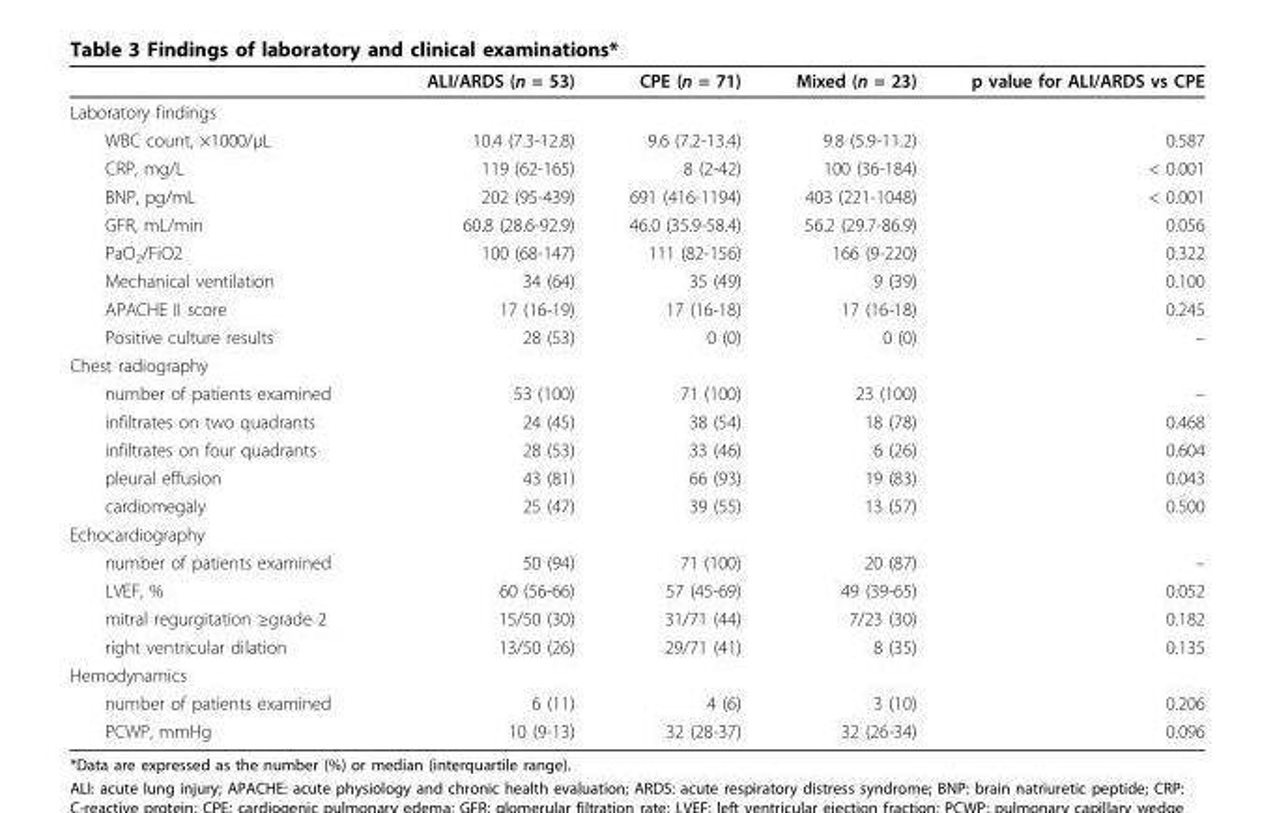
<table><thead><tr><td></td><td>ALI/ARDS (n = 53)</td><td>CPE (n = 71)</td><td>Mixed (n = 23)</td><td>p value for ALI/ARDS vs CPE</td></tr></thead><tbody><tr><td colspan="5">Laboratory findings</td></tr><tr><td>WBC count, ×1000/μL</td><td>10.4 (7.3-12.8)</td><td>9.6 (7.2-13.4)</td><td>9.8 (5.9-11.2)</td><td>0.587</td></tr><tr><td>CRP, mg/L</td><td>119 (62-165)</td><td>8 (2-42)</td><td>100 (36-184)</td><td>&lt; 0.001</td></tr><tr><td>BNP, pg/mL</td><td>202 (95-439)</td><td>691 (416-1194)</td><td>403 (221-1048)</td><td>&lt; 0.001</td></tr><tr><td>GFR, mL/min</td><td>60.8 (28.6-92.9)</td><td>46.0 (35.9-58.4)</td><td>56.2 (29.7-86.9)</td><td>0.056</td></tr><tr><td>PaO<sub>2</sub>/FiO2</td><td>100 (68-147)</td><td>111 (82-156)</td><td>166 (9-220)</td><td>0.322</td></tr><tr><td>Mechanical ventilation</td><td>34 (64)</td><td>35 (49)</td><td>9 (39)</td><td>0.100</td></tr><tr><td>APACHE II score</td><td>17 (16-19)</td><td>17 (16-18)</td><td>17 (16-18)</td><td>0.245</td></tr><tr><td>Positive culture results</td><td>28 (53)</td><td>0 (0)</td><td>0 (0)</td><td>–</td></tr><tr><td colspan="5">Chest radiography</td></tr><tr><td>number of patients examined</td><td>53 (100)</td><td>71 (100)</td><td>23 (100)</td><td>–</td></tr><tr><td>infiltrates on two quadrants</td><td>24 (45)</td><td>38 (54)</td><td>18 (78)</td><td>0.468</td></tr><tr><td>infiltrates on four quadrants</td><td>28 (53)</td><td>33 (46)</td><td>6 (26)</td><td>0.604</td></tr><tr><td>pleural effusion</td><td>43 (81)</td><td>66 (93)</td><td>19 (83)</td><td>0.043</td></tr><tr><td>cardiomegaly</td><td>25 (47)</td><td>39 (55)</td><td>13 (57)</td><td>0.500</td></tr><tr><td colspan="5">Echocardiography</td></tr><tr><td>number of patients examined</td><td>50 (94)</td><td>71 (100)</td><td>20 (87)</td><td>–</td></tr><tr><td>LVEF, %</td><td>60 (56-66)</td><td>57 (45-69)</td><td>49 (39-65)</td><td>0.052</td></tr><tr><td>mitral regurgitation ≥grade 2</td><td>15/50 (30)</td><td>31/71 (44)</td><td>7/23 (30)</td><td>0.182</td></tr><tr><td>right ventricular dilation</td><td>13/50 (26)</td><td>29/71 (41)</td><td>8 (35)</td><td>0.135</td></tr><tr><td colspan="5">Hemodynamics</td></tr><tr><td>number of patients examined</td><td>6 (11)</td><td>4 (6)</td><td>3 (10)</td><td>0.206</td></tr><tr><td>PCWP, mmHg</td><td>10 (9-13)</td><td>32 (28-37)</td><td>32 (26-34)</td><td>0.096</td></tr></tbody></table>